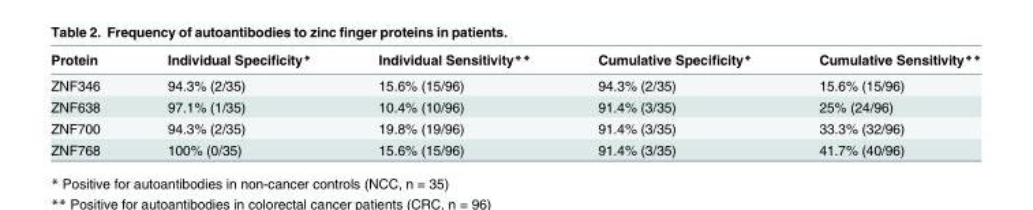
<table><thead><tr><td>Protein</td><td>Individual Specificity*</td><td>Individual Sensitivity**</td><td>Cumulative Specificity*</td><td>Cumulative Sensitivity**</td></tr></thead><tbody><tr><td>ZNF346</td><td>94.3% (2/35)</td><td>15.6% (15/96)</td><td>94.3% (2/35)</td><td>15.6% (15/96)</td></tr><tr><td>ZNF638</td><td>97.1% (1/35)</td><td>10.4% (10/96)</td><td>91.4% (3/35)</td><td>25% (24/96)</td></tr><tr><td>ZNF700</td><td>94.3% (2/35)</td><td>19.8% (19/96)</td><td>91.4% (3/35)</td><td>33.3% (32/96)</td></tr><tr><td>ZNF768</td><td>100% (0/35)</td><td>15.6% (15/96)</td><td>91.4% (3/35)</td><td>41.7% (40/96)</td></tr></tbody></table>